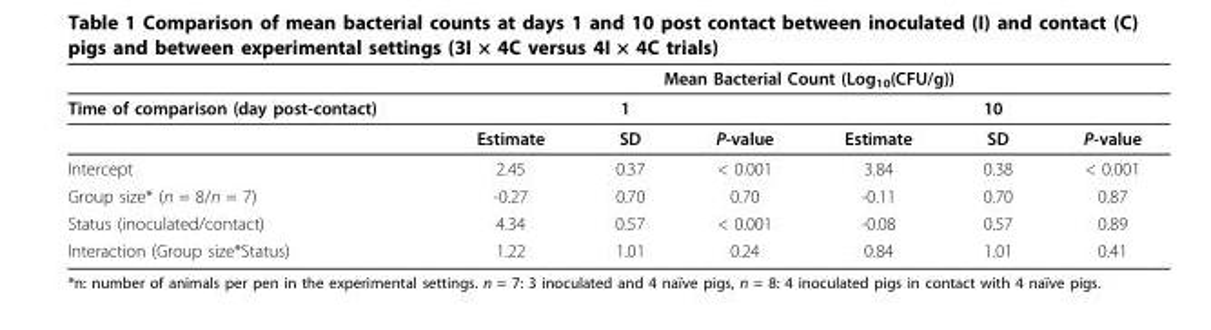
<table><thead><tr><td rowspan="3">Time of comparison (day post-contact)</td><td colspan="6">Mean Bacterial Count (Log<sub>10</sub>(CFU/g))</td></tr><tr><td colspan="3">1</td><td colspan="3">10</td></tr><tr><td>Estimate</td><td>SD</td><td>P-value</td><td>Estimate</td><td>SD</td><td>P-value</td></tr></thead><tbody><tr><td>Intercept</td><td>2.45</td><td>0.37</td><td>&lt; 0.001</td><td>3.84</td><td>0.38</td><td>&lt; 0.001</td></tr><tr><td>Group size* (n = 8/n = 7)</td><td>-0.27</td><td>0.70</td><td>0.70</td><td>-0.11</td><td>0.70</td><td>0.87</td></tr><tr><td>Status (inoculated/contact)</td><td>4.34</td><td>0.57</td><td>&lt; 0.001</td><td>-0.08</td><td>0.57</td><td>0.89</td></tr><tr><td>Interaction (Group size*Status)</td><td>1.22</td><td>1.01</td><td>0.24</td><td>0.84</td><td>1.01</td><td>0.41</td></tr></tbody></table>